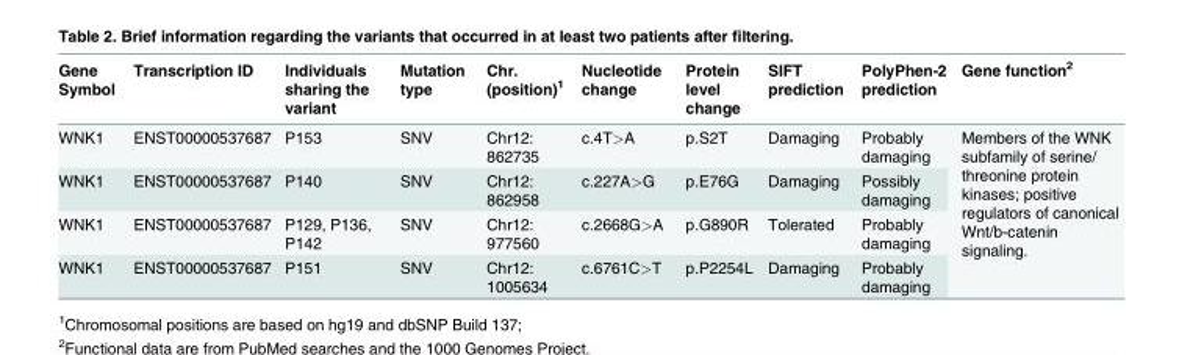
<table><thead><tr><td>Gene Symbol</td><td>Transcription ID</td><td>Individuals sharing the variant</td><td>Mutation type</td><td>Chr. (position)<sup>1</sup></td><td>Nucleotide change</td><td>Protein level change</td><td>SIFT prediction</td><td>PolyPhen-2 prediction</td><td>Gene function<sup>2</sup></td></tr></thead><tbody><tr><td>WNK1</td><td>ENST00000537687</td><td>P153</td><td>SNV</td><td>Chr12: 862735</td><td>c.4T&gt;A</td><td>p.S2T</td><td>Damaging</td><td>Probably damaging</td><td rowspan="4">Members of the WNK subfamily of serine/ threonine protein kinases; positive regulators of canonical Wnt/b-catenin signaling.</td></tr><tr><td>WNK1</td><td>ENST00000537687</td><td>P140</td><td>SNV</td><td>Chr12: 862958</td><td>c.227A&gt;G</td><td>p.E76G</td><td>Damaging</td><td>Possibly damaging</td></tr><tr><td>WNK1</td><td>ENST00000537687</td><td>P129, P136, P142</td><td>SNV</td><td>Chr12: 977560</td><td>c.2668G&gt;A</td><td>p.G890R</td><td>Tolerated</td><td>Probably damaging</td></tr><tr><td>WNK1</td><td>ENST00000537687</td><td>P151</td><td>SNV</td><td>Chr12: 1005634</td><td>c.6761C&gt;T</td><td>p.P2254L</td><td>Damaging</td><td>Probably damaging</td></tr></tbody></table>